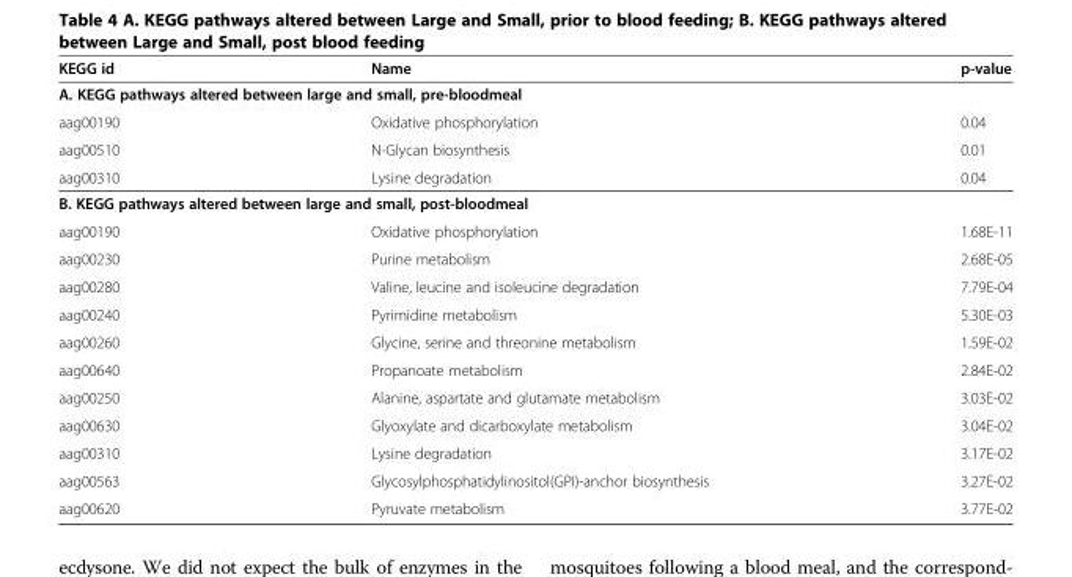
<table><thead><tr><td>KEGG id</td><td>Name</td><td>p-value</td></tr></thead><tbody><tr><td colspan="3">A. KEGG pathways altered between large and small, pre-bloodmeal</td></tr><tr><td>aag00190</td><td>Oxidative phosphorylation</td><td>0.04</td></tr><tr><td>aag00510</td><td>N-Glycan biosynthesis</td><td>0.01</td></tr><tr><td>aag00310</td><td>Lysine degradation</td><td>0.04</td></tr><tr><td colspan="3">B. KEGG pathways altered between large and small, post-bloodmeal</td></tr><tr><td>aag00190</td><td>Oxidative phosphorylation</td><td>1.68E-11</td></tr><tr><td>aag00230</td><td>Purine metabolism</td><td>2.68E-05</td></tr><tr><td>aag00280</td><td>Valine, leucine and isoleucine degradation</td><td>7.79E-04</td></tr><tr><td>aag00240</td><td>Pyrimidine metabolism</td><td>5.30E-03</td></tr><tr><td>aag00260</td><td>Glycine, serine and threonine metabolism</td><td>1.59E-02</td></tr><tr><td>aag00640</td><td>Propanoate metabolism</td><td>2.84E-02</td></tr><tr><td>aag00250</td><td>Alanine, aspartate and glutamate metabolism</td><td>3.03E-02</td></tr><tr><td>aag00630</td><td>Glyoxylate and dicarboxylate metabolism</td><td>3.04E-02</td></tr><tr><td>aag00310</td><td>Lysine degradation</td><td>3.17E-02</td></tr><tr><td>aag00563</td><td>Glycosylphosphatidylinositol(GPI)-anchor biosynthesis</td><td>3.27E-02</td></tr><tr><td>aag00620</td><td>Pyruvate metabolism</td><td>3.77E-02</td></tr></tbody></table>